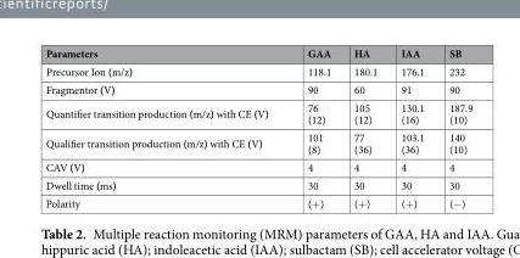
<table><thead><tr><td>Parameters</td><td>GAA</td><td>HA</td><td>IAA</td><td>SB</td></tr></thead><tbody><tr><td>Precursor Ion (m/z)</td><td>118.1</td><td>180.1</td><td>176.1</td><td>232</td></tr><tr><td>Fragmentor (V)</td><td>90</td><td>60</td><td>91</td><td>90</td></tr><tr><td>Quantifier transition production (m/z) with CE (V)</td><td>76 (12)</td><td>105 (12)</td><td>130.1 (16)</td><td>187.9 (10)</td></tr><tr><td>Qualifier transition production (m/z) with CE (V)</td><td>101 (8)</td><td>77 (36)</td><td>103.1 (36)</td><td>140 (10)</td></tr><tr><td>CAV (V)</td><td>4</td><td>4</td><td>4</td><td>4</td></tr><tr><td>Dwell time (ms)</td><td>30</td><td>30</td><td>30</td><td>30</td></tr><tr><td>Polarity</td><td>(+)</td><td>(+)</td><td>(+)</td><td>(−)</td></tr></tbody></table>